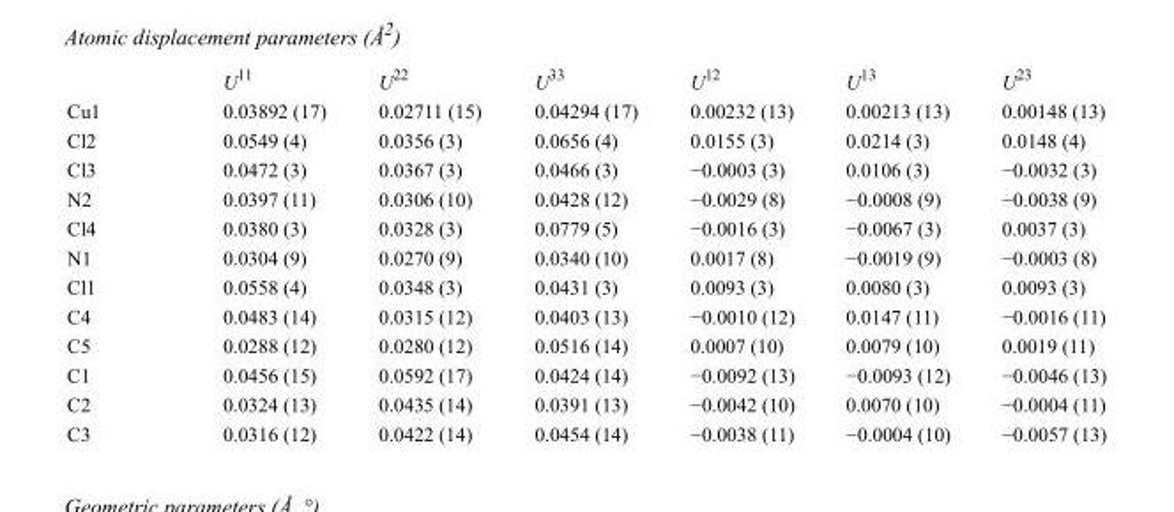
<table><thead><tr><td></td><td>U<sup>11</sup></td><td>U<sup>22</sup></td><td>U<sup>33</sup></td><td>U<sup>12</sup></td><td>U<sup>13</sup></td><td>U<sup>23</sup></td></tr></thead><tbody><tr><td>Cu1</td><td>0.03892 (17)</td><td>0.02711 (15)</td><td>0.04294 (17)</td><td>0.00232 (13)</td><td>0.00213 (13)</td><td>0.00148 (13)</td></tr><tr><td>Cl2</td><td>0.0549 (4)</td><td>0.0356 (3)</td><td>0.0656 (4)</td><td>0.0155 (3)</td><td>0.0214 (3)</td><td>0.0148 (4)</td></tr><tr><td>Cl3</td><td>0.0472 (3)</td><td>0.0367 (3)</td><td>0.0466 (3)</td><td>−0.0003 (3)</td><td>0.0106 (3)</td><td>−0.0032 (3)</td></tr><tr><td>N2</td><td>0.0397 (11)</td><td>0.0306 (10)</td><td>0.0428 (12)</td><td>−0.0029 (8)</td><td>−0.0008 (9)</td><td>−0.0038 (9)</td></tr><tr><td>Cl4</td><td>0.0380 (3)</td><td>0.0328 (3)</td><td>0.0779 (5)</td><td>−0.0016 (3)</td><td>−0.0067 (3)</td><td>0.0037 (3)</td></tr><tr><td>N1</td><td>0.0304 (9)</td><td>0.0270 (9)</td><td>0.0340 (10)</td><td>0.0017 (8)</td><td>−0.0019 (9)</td><td>−0.0003 (8)</td></tr><tr><td>Cl1</td><td>0.0558 (4)</td><td>0.0348 (3)</td><td>0.0431 (3)</td><td>0.0093 (3)</td><td>0.0080 (3)</td><td>0.0093 (3)</td></tr><tr><td>C4</td><td>0.0483 (14)</td><td>0.0315 (12)</td><td>0.0403 (13)</td><td>−0.0010 (12)</td><td>0.0147 (11)</td><td>−0.0016 (11)</td></tr><tr><td>C5</td><td>0.0288 (12)</td><td>0.0280 (12)</td><td>0.0516 (14)</td><td>0.0007 (10)</td><td>0.0079 (10)</td><td>0.0019 (11)</td></tr><tr><td>C1</td><td>0.0456 (15)</td><td>0.0592 (17)</td><td>0.0424 (14)</td><td>−0.0092 (13)</td><td>−0.0093 (12)</td><td>−0.0046 (13)</td></tr><tr><td>C2</td><td>0.0324 (13)</td><td>0.0435 (14)</td><td>0.0391 (13)</td><td>−0.0042 (10)</td><td>0.0070 (10)</td><td>−0.0004 (11)</td></tr><tr><td>C3</td><td>0.0316 (12)</td><td>0.0422 (14)</td><td>0.0454 (14)</td><td>−0.0038 (11)</td><td>−0.0004 (10)</td><td>−0.0057 (13)</td></tr></tbody></table>